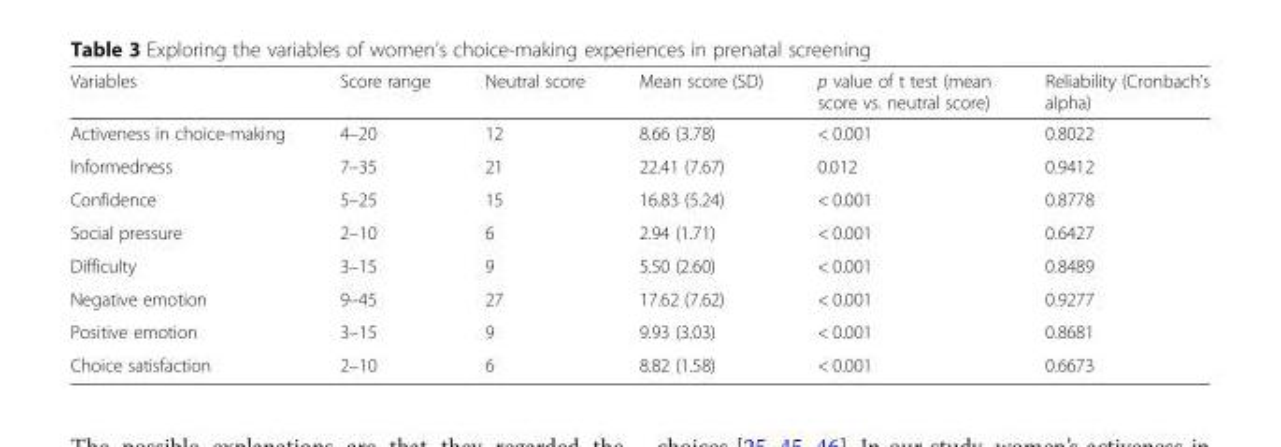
<table><thead><tr><td>Variables</td><td>Score range</td><td>Neutral score</td><td>Mean score (SD)</td><td>p value of t test (mean score vs. neutral score)</td><td>Reliability (Cronbach’s alpha)</td></tr></thead><tbody><tr><td>Activeness in choice-making</td><td>4–20</td><td>12</td><td>8.66 (3.78)</td><td>&lt; 0.001</td><td>0.8022</td></tr><tr><td>Informedness</td><td>7–35</td><td>21</td><td>22.41 (7.67)</td><td>0.012</td><td>0.9412</td></tr><tr><td>Confidence</td><td>5–25</td><td>15</td><td>16.83 (5.24)</td><td>&lt; 0.001</td><td>0.8778</td></tr><tr><td>Social pressure</td><td>2–10</td><td>6</td><td>2.94 (1.71)</td><td>&lt; 0.001</td><td>0.6427</td></tr><tr><td>Difficulty</td><td>3–15</td><td>9</td><td>5.50 (2.60)</td><td>&lt; 0.001</td><td>0.8489</td></tr><tr><td>Negative emotion</td><td>9–45</td><td>27</td><td>17.62 (7.62)</td><td>&lt; 0.001</td><td>0.9277</td></tr><tr><td>Positive emotion</td><td>3–15</td><td>9</td><td>9.93 (3.03)</td><td>&lt; 0.001</td><td>0.8681</td></tr><tr><td>Choice satisfaction</td><td>2–10</td><td>6</td><td>8.82 (1.58)</td><td>&lt; 0.001</td><td>0.6673</td></tr></tbody></table>